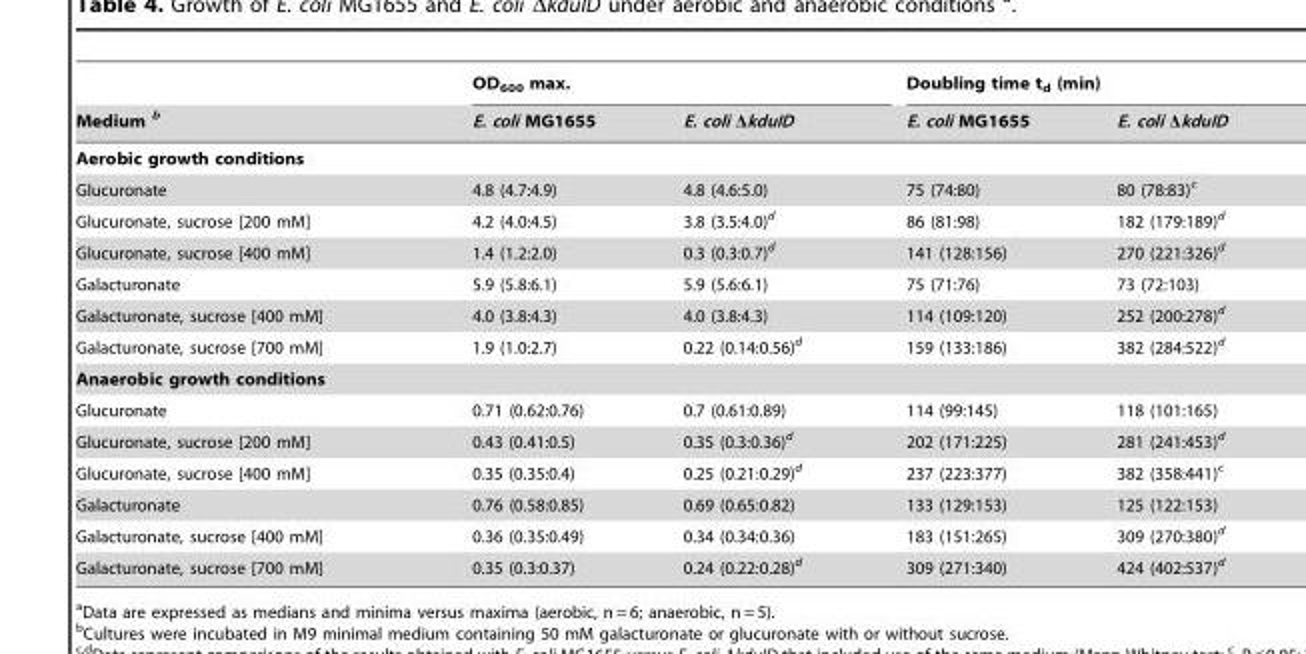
<table><thead><tr><td rowspan="2">Medium b</td><td colspan="2">OD600 max.</td><td colspan="2">Doubling time td (min)</td></tr><tr><td>E. coli MG1655</td><td>E. coli ΔkduID</td><td>E. coli MG1655</td><td>E. coli ΔkduID</td></tr></thead><tbody><tr><td colspan="5">Aerobic growth conditions</td></tr><tr><td>Glucuronate</td><td>4.8 (4.7:4.9)</td><td>4.8 (4.6:5.0)</td><td>75 (74:80)</td><td>80 (78:83)c</td></tr><tr><td>Glucuronate, sucrose [200 mM]</td><td>4.2 (4.0:4.5)</td><td>3.8 (3.5:4.0)d</td><td>86 (81:98)</td><td>182 (179:189)d</td></tr><tr><td>Glucuronate, sucrose [400 mM]</td><td>1.4 (1.2:2.0)</td><td>0.3 (0.3:0.7)d</td><td>141 (128:156)</td><td>270 (221:326)d</td></tr><tr><td>Galacturonate</td><td>5.9 (5.8:6.1)</td><td>5.9 (5.6:6.1)</td><td>75 (71:76)</td><td>73 (72:103)</td></tr><tr><td>Galacturonate, sucrose [400 mM]</td><td>4.0 (3.8:4.3)</td><td>4.0 (3.8:4.3)</td><td>114 (109:120)</td><td>252 (200:278)d</td></tr><tr><td>Galacturonate, sucrose [700 mM]</td><td>1.9 (1.0:2.7)</td><td>0.22 (0.14:0.56)d</td><td>159 (133:186)</td><td>382 (284:522)d</td></tr><tr><td colspan="5">Anaerobic growth conditions</td></tr><tr><td>Glucuronate</td><td>0.71 (0.62:0.76)</td><td>0.7 (0.61:0.89)</td><td>114 (99:145)</td><td>118 (101:165)</td></tr><tr><td>Glucuronate, sucrose [200 mM]</td><td>0.43 (0.41:0.5)</td><td>0.35 (0.3:0.36)d</td><td>202 (171:225)</td><td>281 (241:453)d</td></tr><tr><td>Glucuronate, sucrose [400 mM]</td><td>0.35 (0.35:0.4)</td><td>0.25 (0.21:0.29)d</td><td>237 (223:377)</td><td>382 (358:441)c</td></tr><tr><td>Galacturonate</td><td>0.76 (0.58:0.85)</td><td>0.69 (0.65:0.82)</td><td>133 (129:153)</td><td>125 (122:153)</td></tr><tr><td>Galacturonate, sucrose [400 mM]</td><td>0.36 (0.35:0.49)</td><td>0.34 (0.34:0.36)</td><td>183 (151:265)</td><td>309 (270:380)d</td></tr><tr><td>Galacturonate, sucrose [700 mM]</td><td>0.35 (0.3:0.37)</td><td>0.24 (0.22:0.28)d</td><td>309 (271:340)</td><td>424 (402:537)d</td></tr></tbody></table>